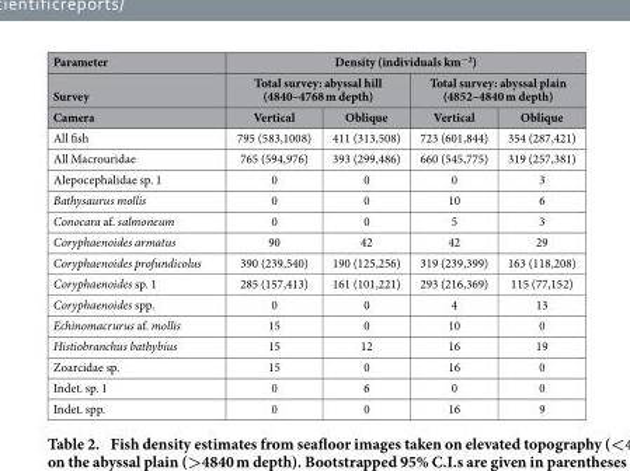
<table><thead><tr><td rowspan="3">Parameter Survey Camera</td><td colspan="4">Density (individuals km<sup>−2</sup>)</td></tr><tr><td colspan="2">Total survey: abyssal hill (4840–4768 m depth)</td><td colspan="2">Total survey: abyssal plain (4852–4840 m depth)</td></tr><tr><td>Vertical</td><td>Oblique</td><td>Vertical</td><td>Oblique</td></tr></thead><tbody><tr><td>All fish</td><td>795 (583,1008)</td><td>411 (313,508)</td><td>723 (601,844)</td><td>354 (287,421)</td></tr><tr><td>All Macrouridae</td><td>765 (594,976)</td><td>393 (299,486)</td><td>660 (545,775)</td><td>319 (257,381)</td></tr><tr><td>Alepocephalidae sp. 1</td><td>0</td><td>0</td><td>0</td><td>3</td></tr><tr><td>Bathysaurus mollis</td><td>0</td><td>0</td><td>10</td><td>6</td></tr><tr><td>Conocara af. salmoneum</td><td>0</td><td>0</td><td>5</td><td>3</td></tr><tr><td>Coryphaenoides armatus</td><td>90</td><td>42</td><td>42</td><td>29</td></tr><tr><td>Coryphaenoides profundicolus</td><td>390 (239,540)</td><td>190 (125,256)</td><td>319 (239,399)</td><td>163 (118,208)</td></tr><tr><td>Coryphaenoides sp. 1</td><td>285 (157,413)</td><td>161 (101,221)</td><td>293 (216,369)</td><td>115 (77,152)</td></tr><tr><td>Coryphaenoides spp.</td><td>0</td><td>0</td><td>4</td><td>13</td></tr><tr><td>Echinomacrurus af. mollis</td><td>15</td><td>0</td><td>10</td><td>0</td></tr><tr><td>Histiobranchus bathybius</td><td>15</td><td>12</td><td>16</td><td>19</td></tr><tr><td>Zoarcidae sp.</td><td>15</td><td>0</td><td>16</td><td>0</td></tr><tr><td>Indet. sp. 1</td><td>0</td><td>6</td><td>0</td><td>0</td></tr><tr><td>Indet. spp.</td><td>0</td><td>0</td><td>16</td><td>9</td></tr></tbody></table>